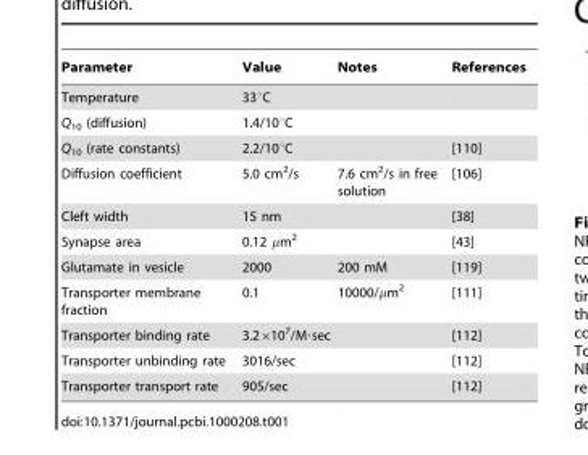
<table><thead><tr><td>Parameter</td><td>Value</td><td>Notes</td><td>References</td></tr></thead><tbody><tr><td>Temperature</td><td>33°C</td><td></td><td></td></tr><tr><td>Q<sub>10</sub> (diffusion)</td><td>1.4/10°C</td><td></td><td></td></tr><tr><td>Q<sub>10</sub> (rate constants)</td><td>2.2/10°C</td><td></td><td>[110]</td></tr><tr><td>Diffusion coefficient</td><td>5.0 cm<sup>2</sup>/s</td><td>7.6 cm<sup>2</sup>/s in free solution</td><td>[106]</td></tr><tr><td>Cleft width</td><td>15 nm</td><td></td><td>[38]</td></tr><tr><td>Synapse area</td><td>0.12 µm<sup>2</sup></td><td></td><td>[43]</td></tr><tr><td>Glutamate in vesicle</td><td>2000</td><td>200 mM</td><td>[119]</td></tr><tr><td>Transporter membrane fraction</td><td>0.1</td><td>10000/µm<sup>2</sup></td><td>[111]</td></tr><tr><td>Transporter binding rate</td><td>3.2×10<sup>7</sup>/M·sec</td><td></td><td>[112]</td></tr><tr><td>Transporter unbinding rate</td><td>3016/sec</td><td></td><td>[112]</td></tr><tr><td>Transporter transport rate</td><td>905/sec</td><td></td><td>[112]</td></tr></tbody></table>